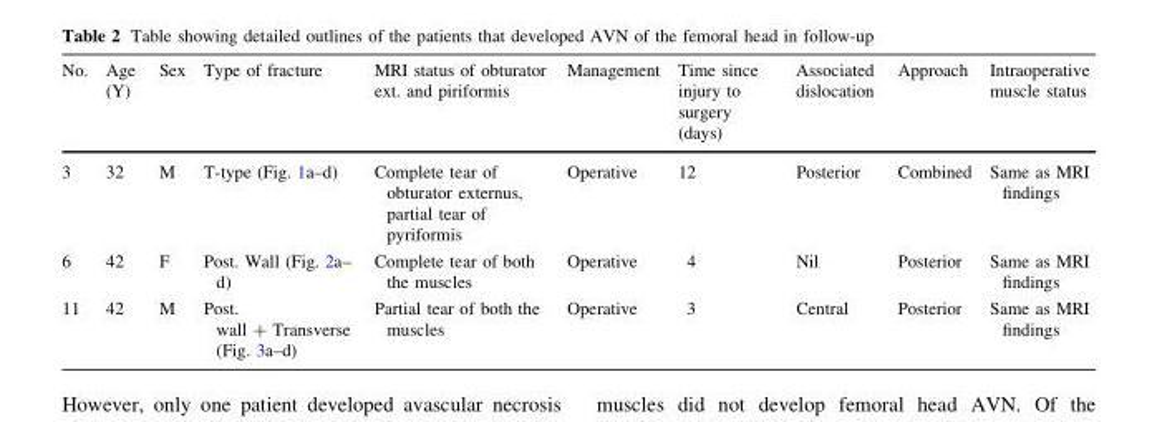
<table><thead><tr><td>No.</td><td>Age (Y)</td><td>Sex</td><td>Type of fracture</td><td>MRI status of obturator ext. and piriformis</td><td>Management</td><td>Time since injury to surgery (days)</td><td>Associated dislocation</td><td>Approach</td><td>Intraoperative muscle status</td></tr></thead><tbody><tr><td>3</td><td>32</td><td>M</td><td>T-type (Fig. 1a–d)</td><td>Complete tear of obturator externus, partial tear of pyriformis</td><td>Operative</td><td>12</td><td>Posterior</td><td>Combined</td><td>Same as MRI findings</td></tr><tr><td>6</td><td>42</td><td>F</td><td>Post. Wall (Fig. 2a– d)</td><td>Complete tear of both the muscles</td><td>Operative</td><td>4</td><td>Nil</td><td>Posterior</td><td>Same as MRI findings</td></tr><tr><td>11</td><td>42</td><td>M</td><td>Post. wall + Transverse (Fig. 3a–d)</td><td>Partial tear of both the muscles</td><td>Operative</td><td>3</td><td>Central</td><td>Posterior</td><td>Same as MRI findings</td></tr></tbody></table>